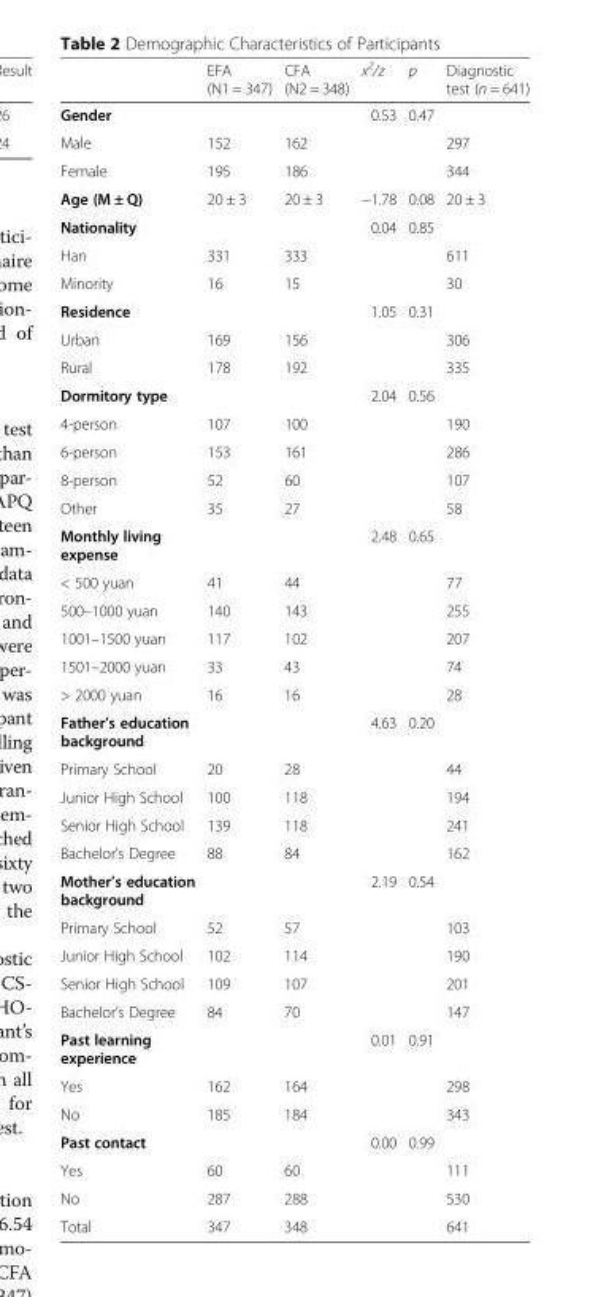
<table><thead><tr><td></td><td>EFA (N1 = 347)</td><td>CFA (N2 = 348)</td><td>x<sup>2</sup>/z</td><td>p</td><td>Diagnostic test (n = 641)</td></tr></thead><tbody><tr><td>Gender</td><td></td><td></td><td>0.53</td><td>0.47</td><td></td></tr><tr><td>Male</td><td>152</td><td>162</td><td></td><td></td><td>297</td></tr><tr><td>Female</td><td>195</td><td>186</td><td></td><td></td><td>344</td></tr><tr><td>Age (M ± Q)</td><td>20 ± 3</td><td>20 ± 3</td><td>−1.78</td><td>0.08</td><td>20 ± 3</td></tr><tr><td>Nationality</td><td></td><td></td><td>0.04</td><td>0.85</td><td></td></tr><tr><td>Han</td><td>331</td><td>333</td><td></td><td></td><td>611</td></tr><tr><td>Minority</td><td>16</td><td>15</td><td></td><td></td><td>30</td></tr><tr><td>Residence</td><td></td><td></td><td>1.05</td><td>0.31</td><td></td></tr><tr><td>Urban</td><td>169</td><td>156</td><td></td><td></td><td>306</td></tr><tr><td>Rural</td><td>178</td><td>192</td><td></td><td></td><td>335</td></tr><tr><td>Dormitory type</td><td></td><td></td><td>2.04</td><td>0.56</td><td></td></tr><tr><td>4-person</td><td>107</td><td>100</td><td></td><td></td><td>190</td></tr><tr><td>6-person</td><td>153</td><td>161</td><td></td><td></td><td>286</td></tr><tr><td>8-person</td><td>52</td><td>60</td><td></td><td></td><td>107</td></tr><tr><td>Other</td><td>35</td><td>27</td><td></td><td></td><td>58</td></tr><tr><td>Monthly living expense</td><td></td><td></td><td>2.48</td><td>0.65</td><td></td></tr><tr><td>&lt; 500 yuan</td><td>41</td><td>44</td><td></td><td></td><td>77</td></tr><tr><td>500–1000 yuan</td><td>140</td><td>143</td><td></td><td></td><td>255</td></tr><tr><td>1001–1500 yuan</td><td>117</td><td>102</td><td></td><td></td><td>207</td></tr><tr><td>1501–2000 yuan</td><td>33</td><td>43</td><td></td><td></td><td>74</td></tr><tr><td>&gt; 2000 yuan</td><td>16</td><td>16</td><td></td><td></td><td>28</td></tr><tr><td>Father’s education background</td><td></td><td></td><td>4.63</td><td>0.20</td><td></td></tr><tr><td>Primary School</td><td>20</td><td>28</td><td></td><td></td><td>44</td></tr><tr><td>Junior High School</td><td>100</td><td>118</td><td></td><td></td><td>194</td></tr><tr><td>Senior High School</td><td>139</td><td>118</td><td></td><td></td><td>241</td></tr><tr><td>Bachelor’s Degree</td><td>88</td><td>84</td><td></td><td></td><td>162</td></tr><tr><td>Mother’s education background</td><td></td><td></td><td>2.19</td><td>0.54</td><td></td></tr><tr><td>Primary School</td><td>52</td><td>57</td><td></td><td></td><td>103</td></tr><tr><td>Junior High School</td><td>102</td><td>114</td><td></td><td></td><td>190</td></tr><tr><td>Senior High School</td><td>109</td><td>107</td><td></td><td></td><td>201</td></tr><tr><td>Bachelor’s Degree</td><td>84</td><td>70</td><td></td><td></td><td>147</td></tr><tr><td>Past learning experience</td><td></td><td></td><td>0.01</td><td>0.91</td><td></td></tr><tr><td>Yes</td><td>162</td><td>164</td><td></td><td></td><td>298</td></tr><tr><td>No</td><td>185</td><td>184</td><td></td><td></td><td>343</td></tr><tr><td>Past contact</td><td></td><td></td><td>0.00</td><td>0.99</td><td></td></tr><tr><td>Yes</td><td>60</td><td>60</td><td></td><td></td><td>111</td></tr><tr><td>No</td><td>287</td><td>288</td><td></td><td></td><td>530</td></tr><tr><td>Total</td><td>347</td><td>348</td><td></td><td></td><td>641</td></tr></tbody></table>